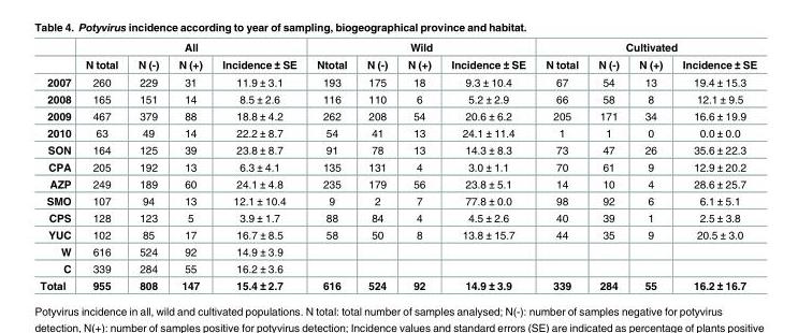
<table><thead><tr><td rowspan="2"></td><td colspan="4">All</td><td colspan="4">Wild</td><td colspan="4">Cultivated</td></tr><tr><td>N total</td><td>N (-)</td><td>N (+)</td><td>Incidence ± SE</td><td>Ntotal</td><td>N (-)</td><td>N (+)</td><td>Incidence ± SE</td><td>N total</td><td>N (-)</td><td>N (+)</td><td>Incidence ± SE</td></tr></thead><tbody><tr><td>2007</td><td>260</td><td>229</td><td>31</td><td>11.9 ± 3.1</td><td>193</td><td>175</td><td>18</td><td>9.3 ± 10.4</td><td>67</td><td>54</td><td>13</td><td>19.4 ± 15.3</td></tr><tr><td>2008</td><td>165</td><td>151</td><td>14</td><td>8.5 ± 2.6</td><td>116</td><td>110</td><td>6</td><td>5.2 ± 2.9</td><td>66</td><td>58</td><td>8</td><td>12.1 ± 9.5</td></tr><tr><td>2009</td><td>467</td><td>379</td><td>88</td><td>18.8 ± 4.2</td><td>262</td><td>208</td><td>54</td><td>20.6 ± 6.2</td><td>205</td><td>171</td><td>34</td><td>16.6 ± 19.9</td></tr><tr><td>2010</td><td>63</td><td>49</td><td>14</td><td>22.2 ± 8.7</td><td>54</td><td>41</td><td>13</td><td>24.1 ± 11.4</td><td>1</td><td>1</td><td>0</td><td>0.0 ± 0.0</td></tr><tr><td>SON</td><td>164</td><td>125</td><td>39</td><td>23.8 ± 8.7</td><td>91</td><td>78</td><td>13</td><td>14.3 ± 8.3</td><td>73</td><td>47</td><td>26</td><td>35.6 ± 22.3</td></tr><tr><td>CPA</td><td>205</td><td>192</td><td>13</td><td>6.3 ± 4.1</td><td>135</td><td>131</td><td>4</td><td>3.0 ± 1.1</td><td>70</td><td>61</td><td>9</td><td>12.9 ± 20.2</td></tr><tr><td>AZP</td><td>249</td><td>189</td><td>60</td><td>24.1 ± 4.8</td><td>235</td><td>179</td><td>56</td><td>23.8 ± 5.1</td><td>14</td><td>10</td><td>4</td><td>28.6 ± 25.7</td></tr><tr><td>SMO</td><td>107</td><td>94</td><td>13</td><td>12.1 ± 10.4</td><td>9</td><td>2</td><td>7</td><td>77.8 ± 0.0</td><td>98</td><td>92</td><td>6</td><td>6.1 ± 5.1</td></tr><tr><td>CPS</td><td>128</td><td>123</td><td>5</td><td>3.9 ± 1.7</td><td>88</td><td>84</td><td>4</td><td>4.5 ± 2.6</td><td>40</td><td>39</td><td>1</td><td>2.5 ± 3.8</td></tr><tr><td>YUC</td><td>102</td><td>85</td><td>17</td><td>16.7 ± 8.5</td><td>58</td><td>50</td><td>8</td><td>13.8 ± 15.7</td><td>44</td><td>35</td><td>9</td><td>20.5 ± 3.0</td></tr><tr><td>W</td><td>616</td><td>524</td><td>92</td><td>14.9 ± 3.9</td><td></td><td></td><td></td><td></td><td></td><td></td><td></td><td></td></tr><tr><td>C</td><td>339</td><td>284</td><td>55</td><td>16.2 ± 3.6</td><td></td><td></td><td></td><td></td><td></td><td></td><td></td><td></td></tr><tr><td>Total</td><td>955</td><td>808</td><td>147</td><td>15.4 ± 2.7</td><td>616</td><td>524</td><td>92</td><td>14.9 ± 3.9</td><td>339</td><td>284</td><td>55</td><td>16.2 ± 16.7</td></tr></tbody></table>